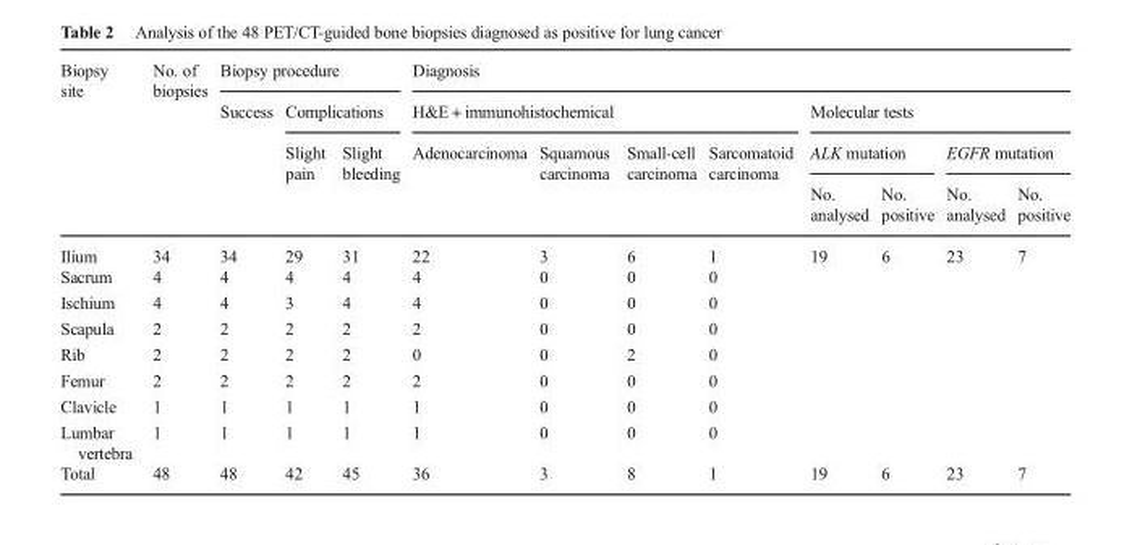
<table><thead><tr><td rowspan="4">Biopsy site</td><td rowspan="4">No. of biopsies</td><td colspan="3">Biopsy procedure</td><td colspan="8">Diagnosis</td></tr><tr><td rowspan="3">Success</td><td colspan="2">Complications</td><td colspan="4">H&amp;E + immunohistochemical</td><td colspan="4">Molecular tests</td></tr><tr><td rowspan="2">Slight pain</td><td rowspan="2">Slight bleeding</td><td rowspan="2">Adenocarcinoma</td><td rowspan="2">Squamous carcinoma</td><td rowspan="2">Small-cell carcinoma</td><td rowspan="2">Sarcomatoid carcinoma</td><td colspan="2">ALK mutation</td><td colspan="2">EGFR mutation</td></tr><tr><td>No. analysed</td><td>No. positive</td><td>No. analysed</td><td>No. positive</td></tr></thead><tbody><tr><td>Ilium</td><td>34</td><td>34</td><td>29</td><td>31</td><td>22</td><td>3</td><td>6</td><td>1</td><td rowspan="8">19</td><td rowspan="8">6</td><td rowspan="8">23</td><td rowspan="8">7</td></tr><tr><td>Sacrum</td><td>4</td><td>4</td><td>4</td><td>4</td><td>4</td><td>0</td><td>0</td><td>0</td></tr><tr><td>Ischium</td><td>4</td><td>4</td><td>3</td><td>4</td><td>4</td><td>0</td><td>0</td><td>0</td></tr><tr><td>Scapula</td><td>2</td><td>2</td><td>2</td><td>2</td><td>2</td><td>0</td><td>0</td><td>0</td></tr><tr><td>Rib</td><td>2</td><td>2</td><td>2</td><td>2</td><td>0</td><td>0</td><td>2</td><td>0</td></tr><tr><td>Femur</td><td>2</td><td>2</td><td>2</td><td>2</td><td>2</td><td>0</td><td>0</td><td>0</td></tr><tr><td>Clavicle</td><td>1</td><td>1</td><td>1</td><td>1</td><td>1</td><td>0</td><td>0</td><td>0</td></tr><tr><td>Lumbar vertebra</td><td>1</td><td>1</td><td>1</td><td>1</td><td>1</td><td>0</td><td>0</td><td>0</td></tr><tr><td>Total</td><td>48</td><td>48</td><td>42</td><td>45</td><td>36</td><td>3</td><td>8</td><td>1</td><td>19</td><td>6</td><td>23</td><td>7</td></tr></tbody></table>